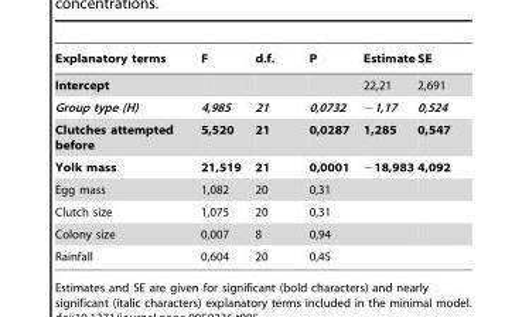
<table><thead><tr><td>Explanatory terms</td><td>F</td><td>d.f.</td><td>P</td><td>Estimate</td><td>SE</td></tr></thead><tbody><tr><td>Intercept</td><td></td><td></td><td></td><td>22,21</td><td>2,691</td></tr><tr><td>Group type (H)</td><td>4,985</td><td>21</td><td>0,0732</td><td>−1,17</td><td>0,524</td></tr><tr><td>Clutches attempted before</td><td>5,520</td><td>21</td><td>0,0287</td><td>1,285</td><td>0,547</td></tr><tr><td>Yolk mass</td><td>21,519</td><td>21</td><td>0,0001</td><td>−18,983</td><td>4,092</td></tr><tr><td>Egg mass</td><td>1,082</td><td>20</td><td>0,31</td><td></td><td></td></tr><tr><td>Clutch size</td><td>1,075</td><td>20</td><td>0,31</td><td></td><td></td></tr><tr><td>Colony size</td><td>0,007</td><td>8</td><td>0,94</td><td></td><td></td></tr><tr><td>Rainfall</td><td>0,604</td><td>20</td><td>0,45</td><td></td><td></td></tr></tbody></table>